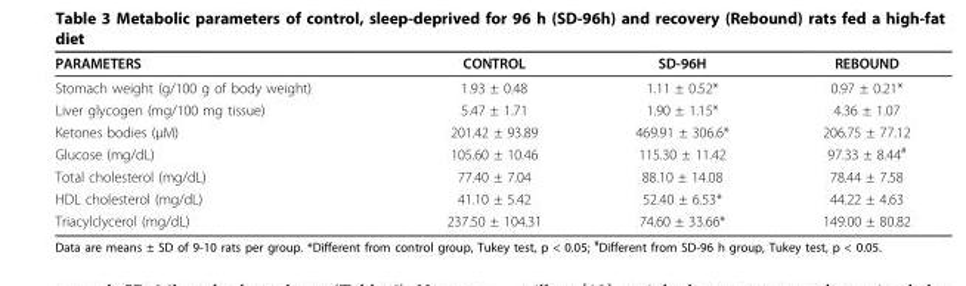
<table><thead><tr><td>PARAMETERS</td><td>CONTROL</td><td>SD-96H</td><td>REBOUND</td></tr></thead><tbody><tr><td>Stomach weight (g/100 g of body weight)</td><td>1.93 ± 0.48</td><td>1.11 ± 0.52*</td><td>0.97 ± 0.21*</td></tr><tr><td>Liver glycogen (mg/100 mg tissue)</td><td>5.47 ± 1.71</td><td>1.90 ± 1.15*</td><td>4.36 ± 1.07</td></tr><tr><td>Ketones bodies (μM)</td><td>201.42 ± 93.89</td><td>469.91 ± 306.6*</td><td>206.75 ± 77.12</td></tr><tr><td>Glucose (mg/dL)</td><td>105.60 ± 10.46</td><td>115.30 ± 11.42</td><td>97.33 ± 8.44<sup>#</sup></td></tr><tr><td>Total cholesterol (mg/dL)</td><td>77.40 ± 7.04</td><td>88.10 ± 14.08</td><td>78.44 ± 7.58</td></tr><tr><td>HDL cholesterol (mg/dL)</td><td>41.10 ± 5.42</td><td>52.40 ± 6.53*</td><td>44.22 ± 4.63</td></tr><tr><td>Triacylclycerol (mg/dL)</td><td>237.50 ± 104.31</td><td>74.60 ± 33.66*</td><td>149.00 ± 80.82</td></tr></tbody></table>